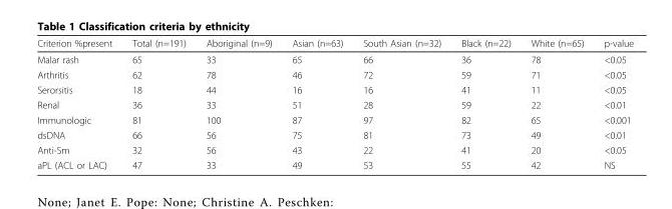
<table><thead><tr><td>Criterion %present</td><td>Total (n=191)</td><td>Aboriginal (n=9)</td><td>Asian (n=63)</td><td>South Asian (n=32)</td><td>Black (n=22)</td><td>White (n=65)</td><td>p-value</td></tr></thead><tbody><tr><td>Malar rash</td><td>65</td><td>33</td><td>65</td><td>66</td><td>36</td><td>78</td><td>&lt;0.05</td></tr><tr><td>Arthritis</td><td>62</td><td>78</td><td>46</td><td>72</td><td>59</td><td>71</td><td>&lt;0.05</td></tr><tr><td>Serorsitis</td><td>18</td><td>44</td><td>16</td><td>16</td><td>41</td><td>11</td><td>&lt;0.05</td></tr><tr><td>Renal</td><td>36</td><td>33</td><td>51</td><td>28</td><td>59</td><td>22</td><td>&lt;0.01</td></tr><tr><td>Immunologic</td><td>81</td><td>100</td><td>87</td><td>97</td><td>82</td><td>65</td><td>&lt;0.001</td></tr><tr><td>dsDNA</td><td>66</td><td>56</td><td>75</td><td>81</td><td>73</td><td>49</td><td>&lt;0.01</td></tr><tr><td>Anti-Sm</td><td>32</td><td>56</td><td>43</td><td>22</td><td>41</td><td>20</td><td>&lt;0.05</td></tr><tr><td>aPL (ACL or LAC)</td><td>47</td><td>33</td><td>49</td><td>53</td><td>55</td><td>42</td><td>NS</td></tr></tbody></table>